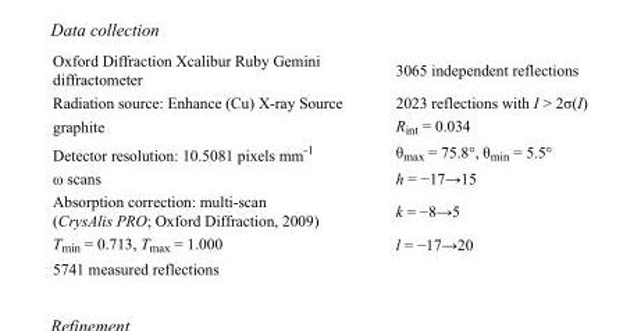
<table><tbody><tr><td>Oxford Diffraction Xcalibur Ruby Gemini diffractometer</td><td>3065 independent reflections</td></tr><tr><td>Radiation source: Enhance (Cu) X-ray Source</td><td>2023 reflections with I &gt; 2σ(I)</td></tr><tr><td>graphite</td><td>R<sub>int</sub> = 0.034</td></tr><tr><td>Detector resolution: 10.5081 pixels mm<sup>-1</sup></td><td>θ<sub>max</sub> = 75.8°, θ<sub>min</sub> = 5.5°</td></tr><tr><td>ω scans</td><td>h = −17→15</td></tr><tr><td>Absorption correction: multi-scan (CrysAlis PRO; Oxford Diffraction, 2009)</td><td>k = −8→5</td></tr><tr><td>T<sub>min</sub> = 0.713, T<sub>max</sub> = 1.000</td><td>l = −17→20</td></tr><tr><td>5741 measured reflections</td><td></td></tr></tbody></table>